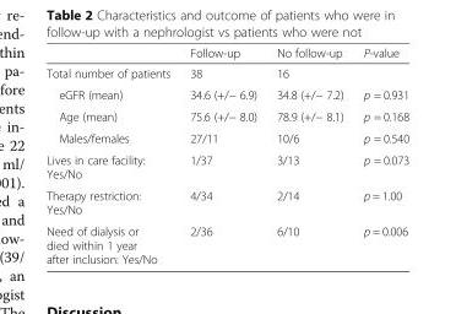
<table><thead><tr><td></td><td>Follow-up</td><td>No follow-up</td><td>P-value</td></tr></thead><tbody><tr><td>Total number of patients</td><td>38</td><td>16</td><td></td></tr><tr><td>eGFR (mean)</td><td>34.6 (+/− 6.9)</td><td>34.8 (+/− 7.2)</td><td>p = 0.931</td></tr><tr><td>Age (mean)</td><td>75.6 (+/− 8.0)</td><td>78.9 (+/− 8.1)</td><td>p = 0.168</td></tr><tr><td>Males/females</td><td>27/11</td><td>10/6</td><td>p = 0.540</td></tr><tr><td>Lives in care facility: Yes/No</td><td>1/37</td><td>3/13</td><td>p = 0.073</td></tr><tr><td>Therapy restriction: Yes/No</td><td>4/34</td><td>2/14</td><td>p = 1.00</td></tr><tr><td>Need of dialysis or died within 1 year after inclusion: Yes/No</td><td>2/36</td><td>6/10</td><td>p = 0.006</td></tr></tbody></table>